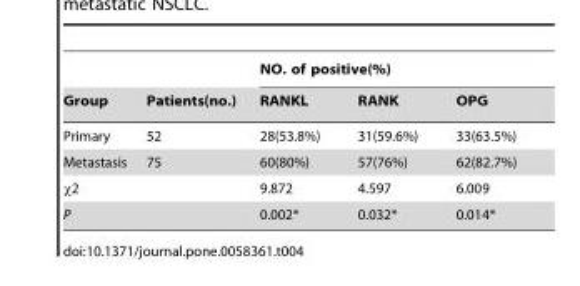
<table><thead><tr><td rowspan="2">Group</td><td rowspan="2">Patients(no.)</td><td colspan="3">NO. of positive(%)</td></tr><tr><td>RANKL</td><td>RANK</td><td>OPG</td></tr></thead><tbody><tr><td>Primary</td><td>52</td><td>28(53.8%)</td><td>31(59.6%)</td><td>33(63.5%)</td></tr><tr><td>Metastasis</td><td>75</td><td>60(80%)</td><td>57(76%)</td><td>62(82.7%)</td></tr><tr><td>χ2</td><td></td><td>9.872</td><td>4.597</td><td>6.009</td></tr><tr><td>P</td><td></td><td>0.002*</td><td>0.032*</td><td>0.014*</td></tr></tbody></table>